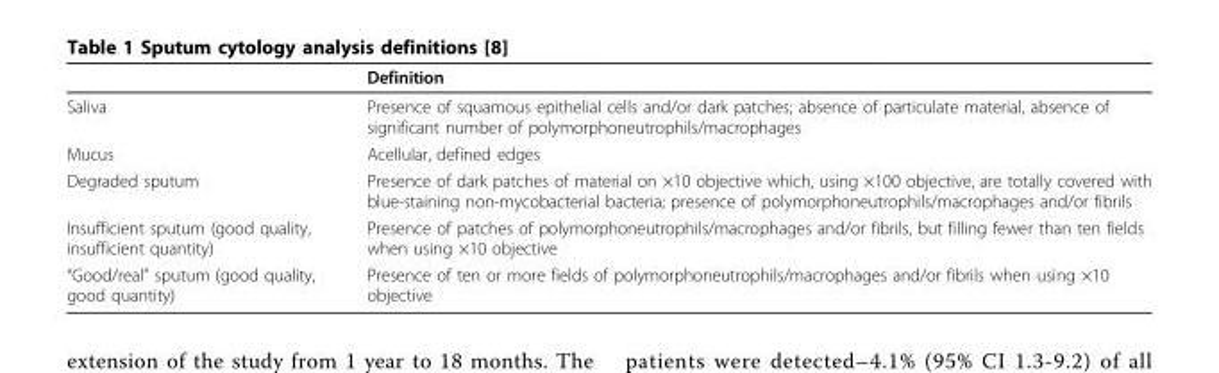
<table><thead><tr><td></td><td>Definition</td></tr></thead><tbody><tr><td>Saliva</td><td>Presence of squamous epithelial cells and/or dark patches; absence of particulate material, absence of significant number of polymorphoneutrophils/macrophages</td></tr><tr><td>Mucus</td><td>Acellular, defined edges</td></tr><tr><td>Degraded sputum</td><td>Presence of dark patches of material on ×10 objective which, using ×100 objective, are totally covered with blue-staining non-mycobacterial bacteria; presence of polymorphoneutrophils/macrophages and/or fibrils</td></tr><tr><td>Insufficient sputum (good quality, insufficient quantity)</td><td>Presence of patches of polymorphoneutrophils/macrophages and/or fibrils, but filling fewer than ten fields when using ×10 objective</td></tr><tr><td>“Good/real” sputum (good quality, good quantity)</td><td>Presence of ten or more fields of polymorphoneutrophils/macrophages and/or fibrils when using ×10 objective</td></tr></tbody></table>